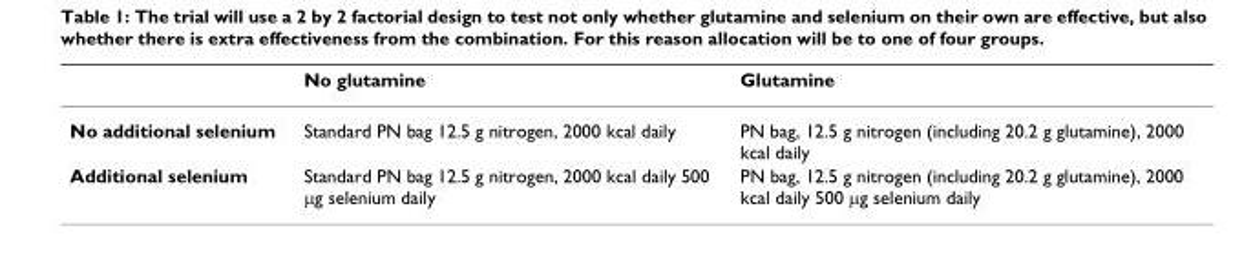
<table><thead><tr><td></td><td>No glutamine</td><td>Glutamine</td></tr></thead><tbody><tr><td>No additional selenium</td><td>Standard PN bag 12.5 g nitrogen, 2000 kcal daily</td><td>PN bag, 12.5 g nitrogen (including 20.2 g glutamine), 2000 kcal daily</td></tr><tr><td>Additional selenium</td><td>Standard PN bag 12.5 g nitrogen, 2000 kcal daily 500 µg selenium daily</td><td>PN bag, 12.5 g nitrogen (including 20.2 g glutamine), 2000 kcal daily 500 µg selenium daily</td></tr></tbody></table>